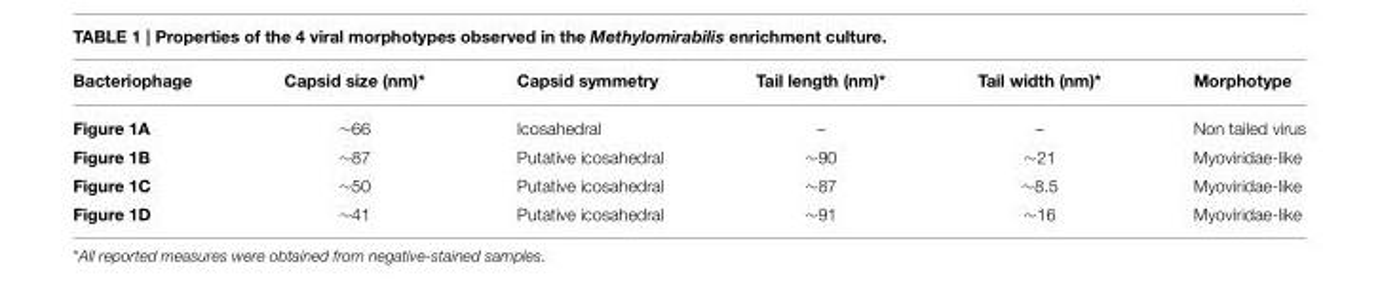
<table><thead><tr><td>Bacteriophage</td><td>Capsid size (nm)*</td><td>Capsid symmetry</td><td>Tail length (nm)*</td><td>Tail width (nm)*</td><td>Morphotype</td></tr></thead><tbody><tr><td>Figure 1A</td><td>∼66</td><td>Icosahedral</td><td>–</td><td>–</td><td>Non tailed virus</td></tr><tr><td>Figure 1B</td><td>∼87</td><td>Putative icosahedral</td><td>∼90</td><td>∼21</td><td>Myoviridae-like</td></tr><tr><td>Figure 1C</td><td>∼50</td><td>Putative icosahedral</td><td>∼87</td><td>∼8.5</td><td>Myoviridae-like</td></tr><tr><td>Figure 1D</td><td>∼41</td><td>Putative icosahedral</td><td>∼91</td><td>∼16</td><td>Myoviridae-like</td></tr></tbody></table>